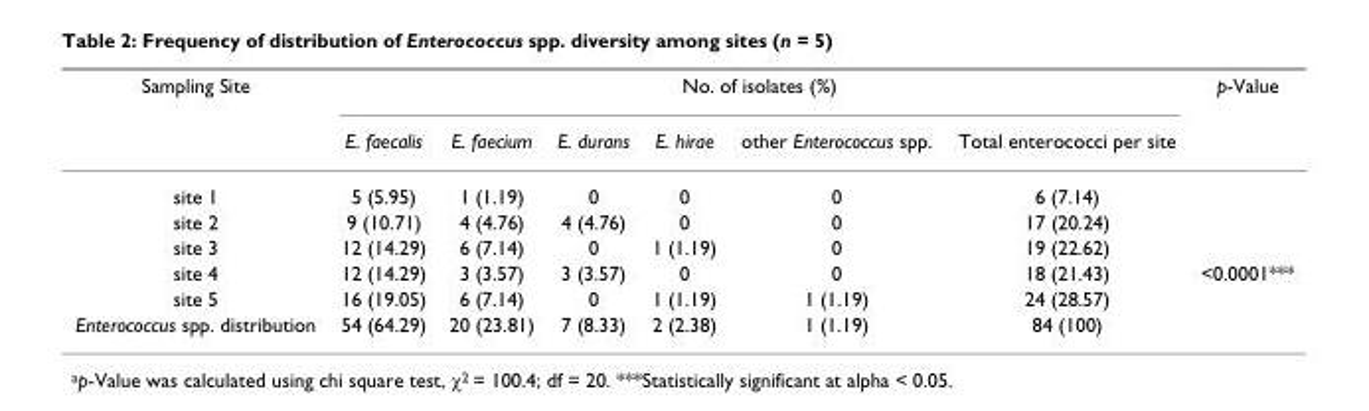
<table><thead><tr><td rowspan="2">Sampling Site</td><td colspan="6">No. of isolates (%)</td><td rowspan="2">p-Value</td></tr><tr><td>E. faecalis</td><td>E. faecium</td><td>E. durans</td><td>E. hirae</td><td>other Enterococcus spp.</td><td>Total enterococci per site</td></tr></thead><tbody><tr><td>site 1</td><td>5 (5.95)</td><td>1 (1.19)</td><td>0</td><td>0</td><td>0</td><td>6 (7.14)</td><td></td></tr><tr><td>site 2</td><td>9 (10.71)</td><td>4 (4.76)</td><td>4 (4.76)</td><td>0</td><td>0</td><td>17 (20.24)</td><td></td></tr><tr><td>site 3</td><td>12 (14.29)</td><td>6 (7.14)</td><td>0</td><td>1 (1.19)</td><td>0</td><td>19 (22.62)</td><td></td></tr><tr><td>site 4</td><td>12 (14.29)</td><td>3 (3.57)</td><td>3 (3.57)</td><td>0</td><td>0</td><td>18 (21.43)</td><td>&lt;0.0001***</td></tr><tr><td>site 5</td><td>16 (19.05)</td><td>6 (7.14)</td><td>0</td><td>1 (1.19)</td><td>1 (1.19)</td><td>24 (28.57)</td><td></td></tr><tr><td>Enterococcus spp. distribution</td><td>54 (64.29)</td><td>20 (23.81)</td><td>7 (8.33)</td><td>2 (2.38)</td><td>1 (1.19)</td><td>84 (100)</td><td></td></tr></tbody></table>